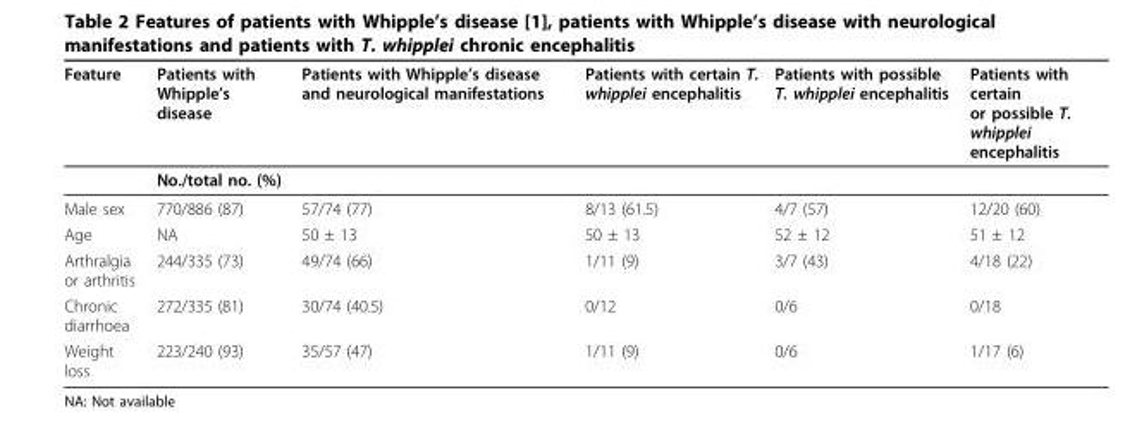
<table><thead><tr><td>Feature</td><td>Patients with Whipple’s disease</td><td>Patients with Whipple’s disease and neurological manifestations</td><td>Patients with certain T. whipplei encephalitis</td><td>Patients with possible T. whipplei encephalitis</td><td>Patients with certain or possible T. whipplei encephalitis</td></tr></thead><tbody><tr><td></td><td>No./total no. (%)</td><td></td><td></td><td></td><td></td></tr><tr><td>Male sex</td><td>770/886 (87)</td><td>57/74 (77)</td><td>8/13 (61.5)</td><td>4/7 (57)</td><td>12/20 (60)</td></tr><tr><td>Age</td><td>NA</td><td>50 ± 13</td><td>50 ± 13</td><td>52 ± 12</td><td>51 ± 12</td></tr><tr><td>Arthralgia or arthritis</td><td>244/335 (73)</td><td>49/74 (66)</td><td>1/11 (9)</td><td>3/7 (43)</td><td>4/18 (22)</td></tr><tr><td>Chronic diarrhoea</td><td>272/335 (81)</td><td>30/74 (40.5)</td><td>0/12</td><td>0/6</td><td>0/18</td></tr><tr><td>Weight loss</td><td>223/240 (93)</td><td>35/57 (47)</td><td>1/11 (9)</td><td>0/6</td><td>1/17 (6)</td></tr></tbody></table>